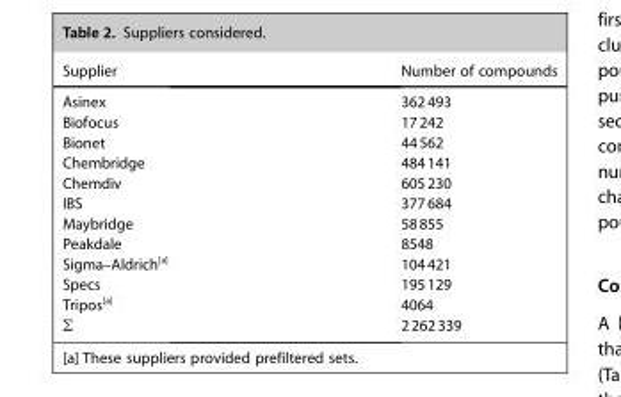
<table><thead><tr><td>Supplier</td><td>Number of compounds</td></tr></thead><tbody><tr><td>Asinex</td><td>362493</td></tr><tr><td>Biofocus</td><td>17242</td></tr><tr><td>Bionet</td><td>44562</td></tr><tr><td>Chembridge</td><td>484141</td></tr><tr><td>Chemdiv</td><td>605230</td></tr><tr><td>IBS</td><td>377684</td></tr><tr><td>Maybridge</td><td>58855</td></tr><tr><td>Peakdale</td><td>8548</td></tr><tr><td>Sigma–Aldrich<sup>[a]</sup></td><td>104421</td></tr><tr><td>Specs</td><td>195129</td></tr><tr><td>Tripos[a]</td><td>4064</td></tr><tr><td>Σ</td><td>2262339</td></tr></tbody></table>